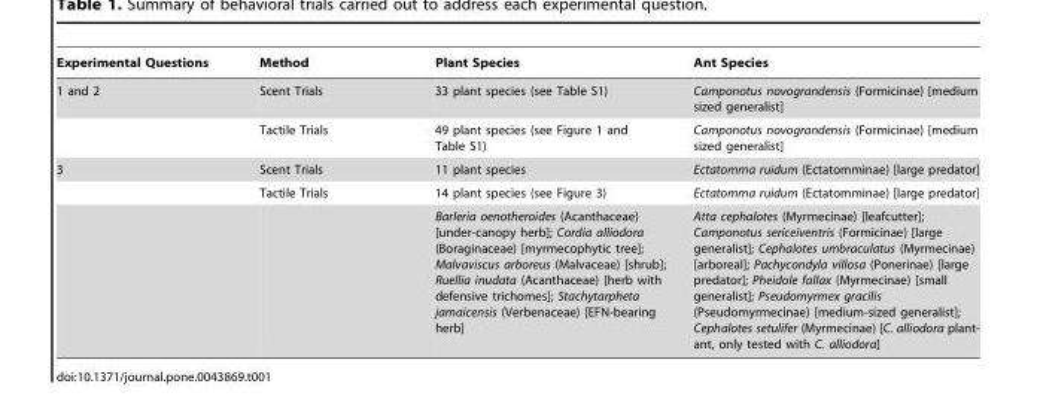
<table><thead><tr><td>Experimental Questions</td><td>Method</td><td>Plant Species</td><td>Ant Species</td></tr></thead><tbody><tr><td rowspan="2">1 and 2</td><td>Scent Trials</td><td>33 plant species (see Table S1)</td><td>Camponotus novograndensis (Formicinae) [medium sized generalist]</td></tr><tr><td>Tactile Trials</td><td>49 plant species (see Figure 1 and Table S1)</td><td>Camponotus novograndensis (Formicinae) [medium sized generalist]</td></tr><tr><td rowspan="3">3</td><td>Scent Trials</td><td>11 plant species</td><td>Ectatomma ruidum (Ectatomminae) [large predator]</td></tr><tr><td>Tactile Trials</td><td>14 plant species (see Figure 3)</td><td>Ectatomma ruidum (Ectatomminae) [large predator]</td></tr><tr><td></td><td>Barleria oenotheroides (Acanthaceae) [under-canopy herb]; Cordia alliodora (Boraginaceae) [myrmecophytic tree]; Malvaviscus arboreus (Malvaceae) [shrub]; Ruellia inudata (Acanthaceae) [herb with defensive trichomes]; Stachytarpheta jamaicensis (Verbenaceae) [EFN-bearing herb]</td><td>Atta cephalotes (Myrmecinae) [leafcutter]; Camponotus sericeiventris (Formicinae) [large generalist]; Cephalotes umbraculatus (Myrmecinae) [arboreal]; Pachycondyla villosa (Ponerinae) [large predator]; Pheidole fallax (Myrmecinae) [small generalist]; Pseudomyrmex gracilis (Pseudomyrmecinae) [medium-sized generalist]; Cephalotes setulifer (Myrmecinae) [C. alliodora plant- ant, only tested with C. alliodora]</td></tr></tbody></table>